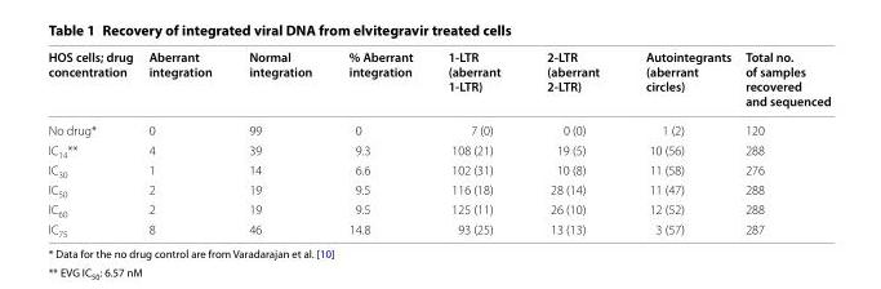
<table><thead><tr><td>HOS cells; drug concentration</td><td>Aberrant integration</td><td>Normal integration</td><td>% Aberrant integration</td><td>1‑LTR (aberrant 1‑LTR)</td><td>2‑LTR (aberrant 2‑LTR)</td><td>Autointegrants (aberrant circles)</td><td>Total no. of samples recovered and sequenced</td></tr></thead><tbody><tr><td>No drug*</td><td>0</td><td>99</td><td>0</td><td>7 (0)</td><td>0 (0)</td><td>1 (2)</td><td>120</td></tr><tr><td>IC<sub>14</sub>**</td><td>4</td><td>39</td><td>9.3</td><td>108 (21)</td><td>19 (5)</td><td>10 (56)</td><td>288</td></tr><tr><td>IC<sub>30</sub></td><td>1</td><td>14</td><td>6.6</td><td>102 (31)</td><td>10 (8)</td><td>11 (58)</td><td>276</td></tr><tr><td>IC<sub>50</sub></td><td>2</td><td>19</td><td>9.5</td><td>116 (18)</td><td>28 (14)</td><td>11 (47)</td><td>288</td></tr><tr><td>IC<sub>60</sub></td><td>2</td><td>19</td><td>9.5</td><td>125 (11)</td><td>26 (10)</td><td>12 (52)</td><td>288</td></tr><tr><td>IC<sub>75</sub></td><td>8</td><td>46</td><td>14.8</td><td>93 (25)</td><td>13 (13)</td><td>3 (57)</td><td>287</td></tr></tbody></table>